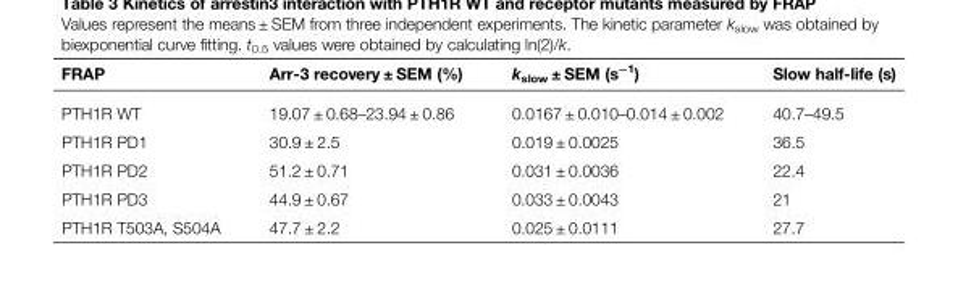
<table><thead><tr><td>FRAP</td><td>Arr-3 recovery ± SEM (%)</td><td>k<sub>slow</sub> ± SEM (s<sup>−1</sup>)</td><td>Slow half-life (s)</td></tr></thead><tbody><tr><td>PTH1R WT</td><td>19.07 ± 0.68–23.94 ± 0.86</td><td>0.0167 ± 0.010–0.014 ± 0.002</td><td>40.7–49.5</td></tr><tr><td>PTH1R PD1</td><td>30.9 ± 2.5</td><td>0.019 ± 0.0025</td><td>36.5</td></tr><tr><td>PTH1R PD2</td><td>51.2 ± 0.71</td><td>0.031 ± 0.0036</td><td>22.4</td></tr><tr><td>PTH1R PD3</td><td>44.9 ± 0.67</td><td>0.033 ± 0.0043</td><td>21</td></tr><tr><td>PTH1R T503A, S504A</td><td>47.7 ± 2.2</td><td>0.025 ± 0.0111</td><td>27.7</td></tr></tbody></table>